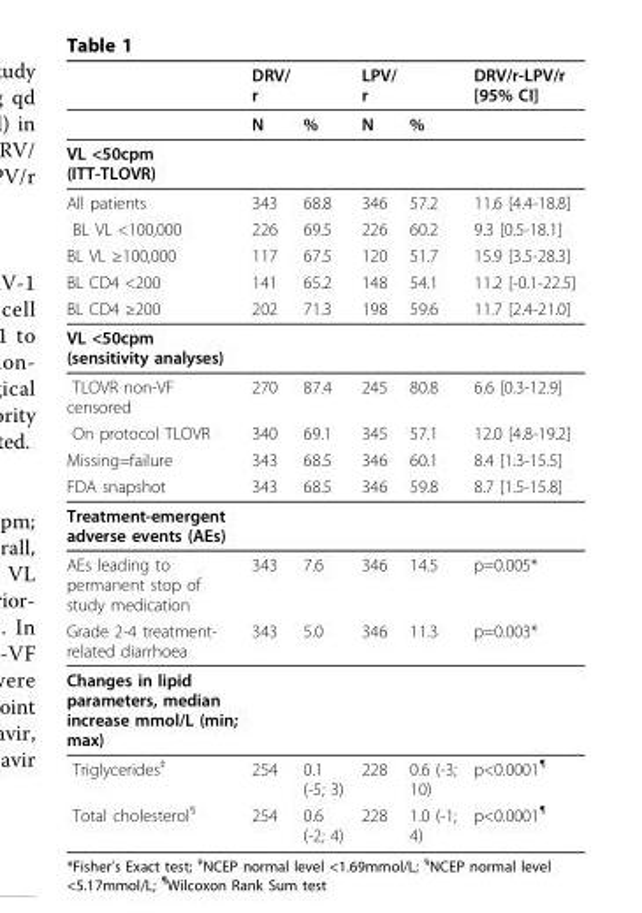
<table><thead><tr><td></td><td>DRV/ r</td><td></td><td>LPV/ r</td><td></td><td>DRV/r-LPV/r [95% CI]</td></tr></thead><tbody><tr><td></td><td>N</td><td>%</td><td>N</td><td>%</td><td></td></tr><tr><td colspan="6">VL &lt;50cpm (ITT-TLOVR)</td></tr><tr><td>All patients</td><td>343</td><td>68.8</td><td>346</td><td>57.2</td><td>11.6 [4.4-18.8]</td></tr><tr><td>BL VL &lt;100,000</td><td>226</td><td>69.5</td><td>226</td><td>60.2</td><td>9.3 [0.5-18.1]</td></tr><tr><td>BL VL ≥100,000</td><td>117</td><td>67.5</td><td>120</td><td>51.7</td><td>15.9 [3.5-28.3]</td></tr><tr><td>BL CD4 &lt;200</td><td>141</td><td>65.2</td><td>148</td><td>54.1</td><td>11.2 [-0.1-22.5]</td></tr><tr><td>BL CD4 ≥200</td><td>202</td><td>71.3</td><td>198</td><td>59.6</td><td>11.7 [2.4-21.0]</td></tr><tr><td colspan="6">VL &lt;50cpm (sensitivity analyses)</td></tr><tr><td>TLOVR non-VF censored</td><td>270</td><td>87.4</td><td>245</td><td>80.8</td><td>6.6 [0.3-12.9]</td></tr><tr><td>On protocol TLOVR</td><td>340</td><td>69.1</td><td>345</td><td>57.1</td><td>12.0 [4.8-19.2]</td></tr><tr><td>Missing=failure</td><td>343</td><td>68.5</td><td>346</td><td>60.1</td><td>8.4 [1.3-15.5]</td></tr><tr><td>FDA snapshot</td><td>343</td><td>68.5</td><td>346</td><td>59.8</td><td>8.7 [1.5-15.8]</td></tr><tr><td colspan="6">Treatment-emergent adverse events (AEs)</td></tr><tr><td>AEs leading to permanent stop of study medication</td><td>343</td><td>7.6</td><td>346</td><td>14.5</td><td>p=0.005*</td></tr><tr><td>Grade 2-4 treatment- related diarrhoea</td><td>343</td><td>5.0</td><td>346</td><td>11.3</td><td>p=0.003*</td></tr><tr><td colspan="6">Changes in lipid parameters, median increase mmol/L (min; max)</td></tr><tr><td>Triglycerides<sup>‡</sup></td><td>254</td><td>0.1 (-5; 3)</td><td>228</td><td>0.6 (-3; 10)</td><td>p&lt;0.0001<sup>¶</sup></td></tr><tr><td>Total cholesterol<sup>§</sup></td><td>254</td><td>0.6 (-2; 4)</td><td>228</td><td>1.0 (-1; 4)</td><td>p&lt;0.0001<sup>¶</sup></td></tr></tbody></table>